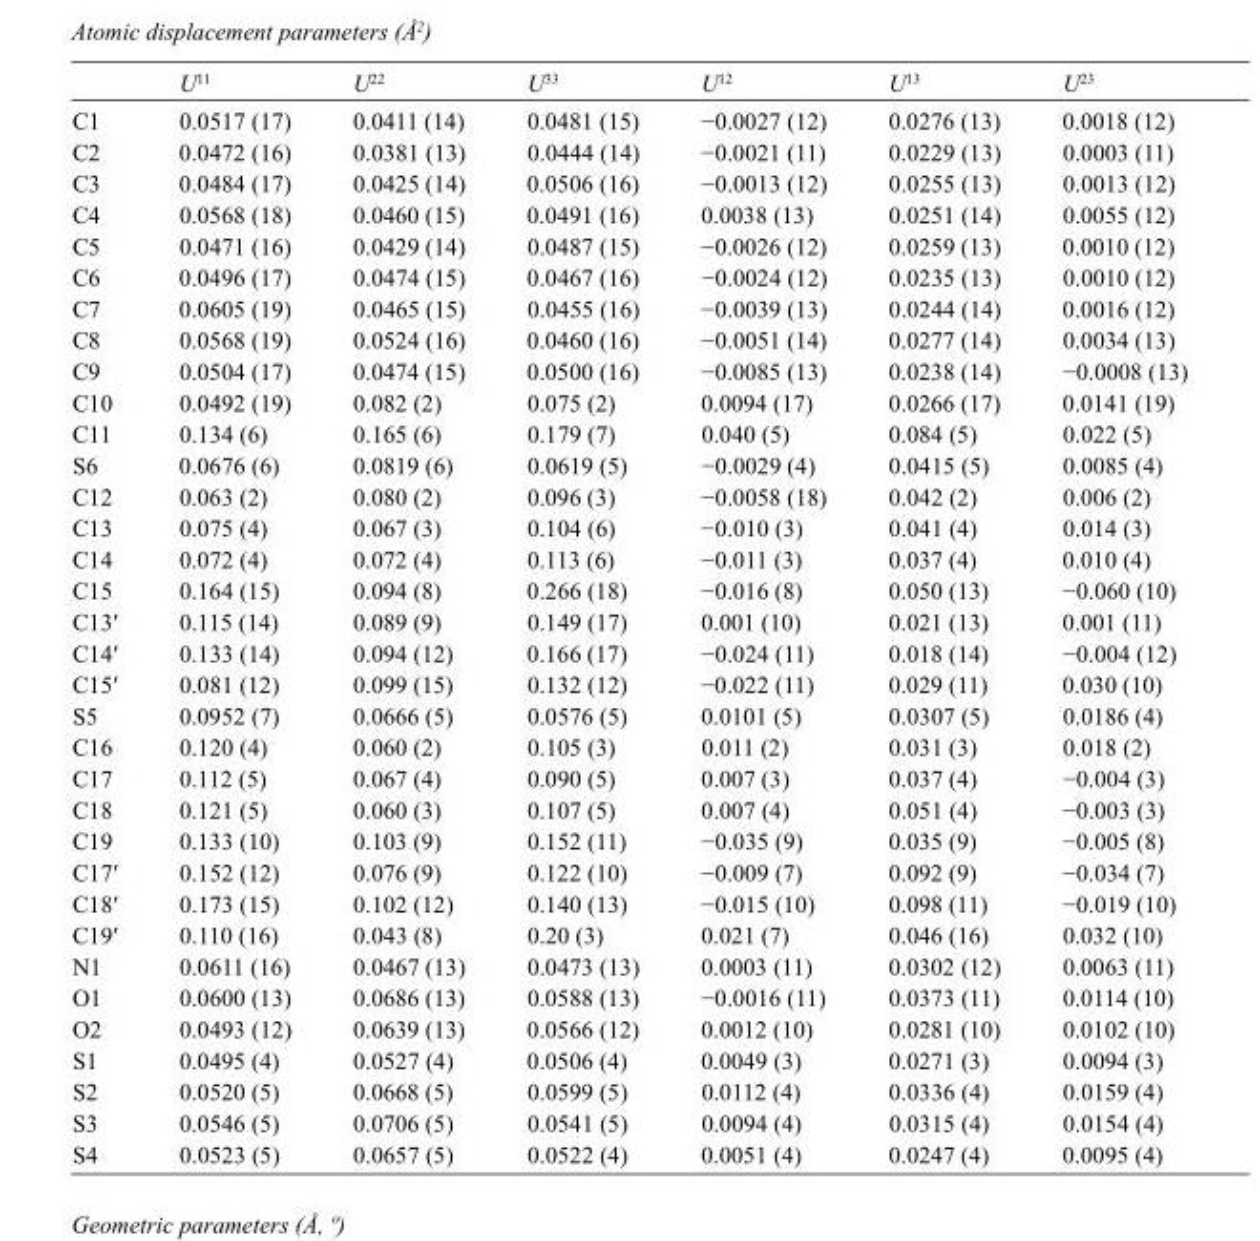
<table><thead><tr><td></td><td>U<sup>11</sup></td><td>U<sup>22</sup></td><td>U<sup>33</sup></td><td>U<sup>12</sup></td><td>U<sup>13</sup></td><td>U<sup>23</sup></td></tr></thead><tbody><tr><td>C1</td><td>0.0517 (17)</td><td>0.0411 (14)</td><td>0.0481 (15)</td><td>−0.0027 (12)</td><td>0.0276 (13)</td><td>0.0018 (12)</td></tr><tr><td>C2</td><td>0.0472 (16)</td><td>0.0381 (13)</td><td>0.0444 (14)</td><td>−0.0021 (11)</td><td>0.0229 (13)</td><td>0.0003 (11)</td></tr><tr><td>C3</td><td>0.0484 (17)</td><td>0.0425 (14)</td><td>0.0506 (16)</td><td>−0.0013 (12)</td><td>0.0255 (13)</td><td>0.0013 (12)</td></tr><tr><td>C4</td><td>0.0568 (18)</td><td>0.0460 (15)</td><td>0.0491 (16)</td><td>0.0038 (13)</td><td>0.0251 (14)</td><td>0.0055 (12)</td></tr><tr><td>C5</td><td>0.0471 (16)</td><td>0.0429 (14)</td><td>0.0487 (15)</td><td>−0.0026 (12)</td><td>0.0259 (13)</td><td>0.0010 (12)</td></tr><tr><td>C6</td><td>0.0496 (17)</td><td>0.0474 (15)</td><td>0.0467 (16)</td><td>−0.0024 (12)</td><td>0.0235 (13)</td><td>0.0010 (12)</td></tr><tr><td>C7</td><td>0.0605 (19)</td><td>0.0465 (15)</td><td>0.0455 (16)</td><td>−0.0039 (13)</td><td>0.0244 (14)</td><td>0.0016 (12)</td></tr><tr><td>C8</td><td>0.0568 (19)</td><td>0.0524 (16)</td><td>0.0460 (16)</td><td>−0.0051 (14)</td><td>0.0277 (14)</td><td>0.0034 (13)</td></tr><tr><td>C9</td><td>0.0504 (17)</td><td>0.0474 (15)</td><td>0.0500 (16)</td><td>−0.0085 (13)</td><td>0.0238 (14)</td><td>−0.0008 (13)</td></tr><tr><td>C10</td><td>0.0492 (19)</td><td>0.082 (2)</td><td>0.075 (2)</td><td>0.0094 (17)</td><td>0.0266 (17)</td><td>0.0141 (19)</td></tr><tr><td>C11</td><td>0.134 (6)</td><td>0.165 (6)</td><td>0.179 (7)</td><td>0.040 (5)</td><td>0.084 (5)</td><td>0.022 (5)</td></tr><tr><td>S6</td><td>0.0676 (6)</td><td>0.0819 (6)</td><td>0.0619 (5)</td><td>−0.0029 (4)</td><td>0.0415 (5)</td><td>0.0085 (4)</td></tr><tr><td>C12</td><td>0.063 (2)</td><td>0.080 (2)</td><td>0.096 (3)</td><td>−0.0058 (18)</td><td>0.042 (2)</td><td>0.006 (2)</td></tr><tr><td>C13</td><td>0.075 (4)</td><td>0.067 (3)</td><td>0.104 (6)</td><td>−0.010 (3)</td><td>0.041 (4)</td><td>0.014 (3)</td></tr><tr><td>C14</td><td>0.072 (4)</td><td>0.072 (4)</td><td>0.113 (6)</td><td>−0.011 (3)</td><td>0.037 (4)</td><td>0.010 (4)</td></tr><tr><td>C15</td><td>0.164 (15)</td><td>0.094 (8)</td><td>0.266 (18)</td><td>−0.016 (8)</td><td>0.050 (13)</td><td>−0.060 (10)</td></tr><tr><td>C13′</td><td>0.115 (14)</td><td>0.089 (9)</td><td>0.149 (17)</td><td>0.001 (10)</td><td>0.021 (13)</td><td>0.001 (11)</td></tr><tr><td>C14′</td><td>0.133 (14)</td><td>0.094 (12)</td><td>0.166 (17)</td><td>−0.024 (11)</td><td>0.018 (14)</td><td>−0.004 (12)</td></tr><tr><td>C15′</td><td>0.081 (12)</td><td>0.099 (15)</td><td>0.132 (12)</td><td>−0.022 (11)</td><td>0.029 (11)</td><td>0.030 (10)</td></tr><tr><td>S5</td><td>0.0952 (7)</td><td>0.0666 (5)</td><td>0.0576 (5)</td><td>0.0101 (5)</td><td>0.0307 (5)</td><td>0.0186 (4)</td></tr><tr><td>C16</td><td>0.120 (4)</td><td>0.060 (2)</td><td>0.105 (3)</td><td>0.011 (2)</td><td>0.031 (3)</td><td>0.018 (2)</td></tr><tr><td>C17</td><td>0.112 (5)</td><td>0.067 (4)</td><td>0.090 (5)</td><td>0.007 (3)</td><td>0.037 (4)</td><td>−0.004 (3)</td></tr><tr><td>C18</td><td>0.121 (5)</td><td>0.060 (3)</td><td>0.107 (5)</td><td>0.007 (4)</td><td>0.051 (4)</td><td>−0.003 (3)</td></tr><tr><td>C19</td><td>0.133 (10)</td><td>0.103 (9)</td><td>0.152 (11)</td><td>−0.035 (9)</td><td>0.035 (9)</td><td>−0.005 (8)</td></tr><tr><td>C17′</td><td>0.152 (12)</td><td>0.076 (9)</td><td>0.122 (10)</td><td>−0.009 (7)</td><td>0.092 (9)</td><td>−0.034 (7)</td></tr><tr><td>C18′</td><td>0.173 (15)</td><td>0.102 (12)</td><td>0.140 (13)</td><td>−0.015 (10)</td><td>0.098 (11)</td><td>−0.019 (10)</td></tr><tr><td>C19′</td><td>0.110 (16)</td><td>0.043 (8)</td><td>0.20 (3)</td><td>0.021 (7)</td><td>0.046 (16)</td><td>0.032 (10)</td></tr><tr><td>N1</td><td>0.0611 (16)</td><td>0.0467 (13)</td><td>0.0473 (13)</td><td>0.0003 (11)</td><td>0.0302 (12)</td><td>0.0063 (11)</td></tr><tr><td>O1</td><td>0.0600 (13)</td><td>0.0686 (13)</td><td>0.0588 (13)</td><td>−0.0016 (11)</td><td>0.0373 (11)</td><td>0.0114 (10)</td></tr><tr><td>O2</td><td>0.0493 (12)</td><td>0.0639 (13)</td><td>0.0566 (12)</td><td>0.0012 (10)</td><td>0.0281 (10)</td><td>0.0102 (10)</td></tr><tr><td>S1</td><td>0.0495 (4)</td><td>0.0527 (4)</td><td>0.0506 (4)</td><td>0.0049 (3)</td><td>0.0271 (3)</td><td>0.0094 (3)</td></tr><tr><td>S2</td><td>0.0520 (5)</td><td>0.0668 (5)</td><td>0.0599 (5)</td><td>0.0112 (4)</td><td>0.0336 (4)</td><td>0.0159 (4)</td></tr><tr><td>S3</td><td>0.0546 (5)</td><td>0.0706 (5)</td><td>0.0541 (5)</td><td>0.0094 (4)</td><td>0.0315 (4)</td><td>0.0154 (4)</td></tr><tr><td>S4</td><td>0.0523 (5)</td><td>0.0657 (5)</td><td>0.0522 (4)</td><td>0.0051 (4)</td><td>0.0247 (4)</td><td>0.0095 (4)</td></tr></tbody></table>